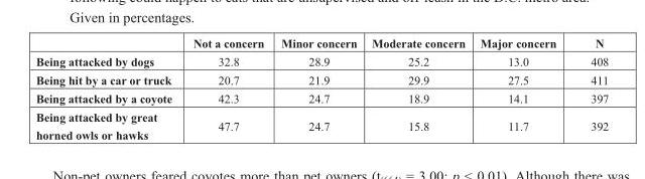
<table><thead><tr><td></td><td>Not a concern</td><td>Minor concern</td><td>Moderate concern</td><td>Major concern</td><td>N</td></tr></thead><tbody><tr><td>Being attacked by dogs</td><td>32.8</td><td>28.9</td><td>25.2</td><td>13.0</td><td>408</td></tr><tr><td>Being hit by a car or truck</td><td>20.7</td><td>21.9</td><td>29.9</td><td>27.5</td><td>411</td></tr><tr><td>Being attacked by a coyote</td><td>42.3</td><td>24.7</td><td>18.9</td><td>14.1</td><td>397</td></tr><tr><td>Being attacked by great horned owls or hawks</td><td>47.7</td><td>24.7</td><td>15.8</td><td>11.7</td><td>392</td></tr></tbody></table>